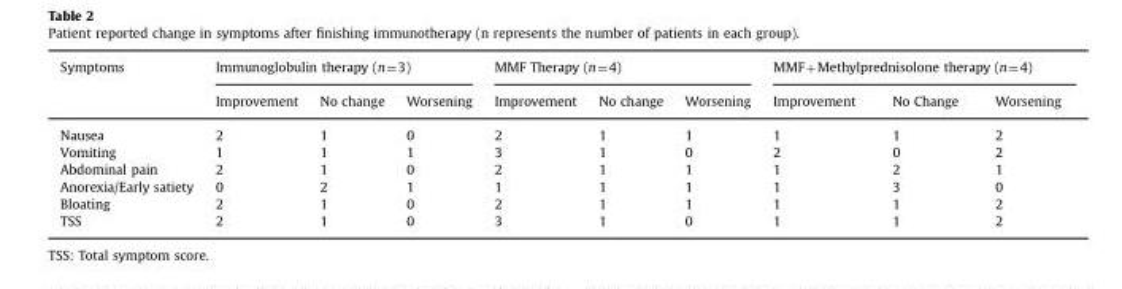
<table><thead><tr><td rowspan="2">Symptoms</td><td colspan="3">Immunoglobulin therapy (n=3)</td><td colspan="3">MMF Therapy (n=4)</td><td colspan="3">MMF+Methylprednisolone therapy (n=4)</td></tr><tr><td>Improvement</td><td>No change</td><td>Worsening</td><td>Improvement</td><td>No change</td><td>Worsening</td><td>Improvement</td><td>No Change</td><td>Worsening</td></tr></thead><tbody><tr><td>Nausea</td><td>2</td><td>1</td><td>0</td><td>2</td><td>1</td><td>1</td><td>1</td><td>1</td><td>2</td></tr><tr><td>Vomiting</td><td>1</td><td>1</td><td>1</td><td>3</td><td>1</td><td>0</td><td>2</td><td>0</td><td>2</td></tr><tr><td>Abdominal pain</td><td>2</td><td>1</td><td>0</td><td>2</td><td>1</td><td>1</td><td>1</td><td>2</td><td>1</td></tr><tr><td>Anorexia/Early satiety</td><td>0</td><td>2</td><td>1</td><td>1</td><td>1</td><td>1</td><td>1</td><td>3</td><td>0</td></tr><tr><td>Bloating</td><td>2</td><td>1</td><td>0</td><td>2</td><td>1</td><td>1</td><td>1</td><td>1</td><td>2</td></tr><tr><td>TSS</td><td>2</td><td>1</td><td>0</td><td>3</td><td>1</td><td>0</td><td>1</td><td>1</td><td>2</td></tr></tbody></table>